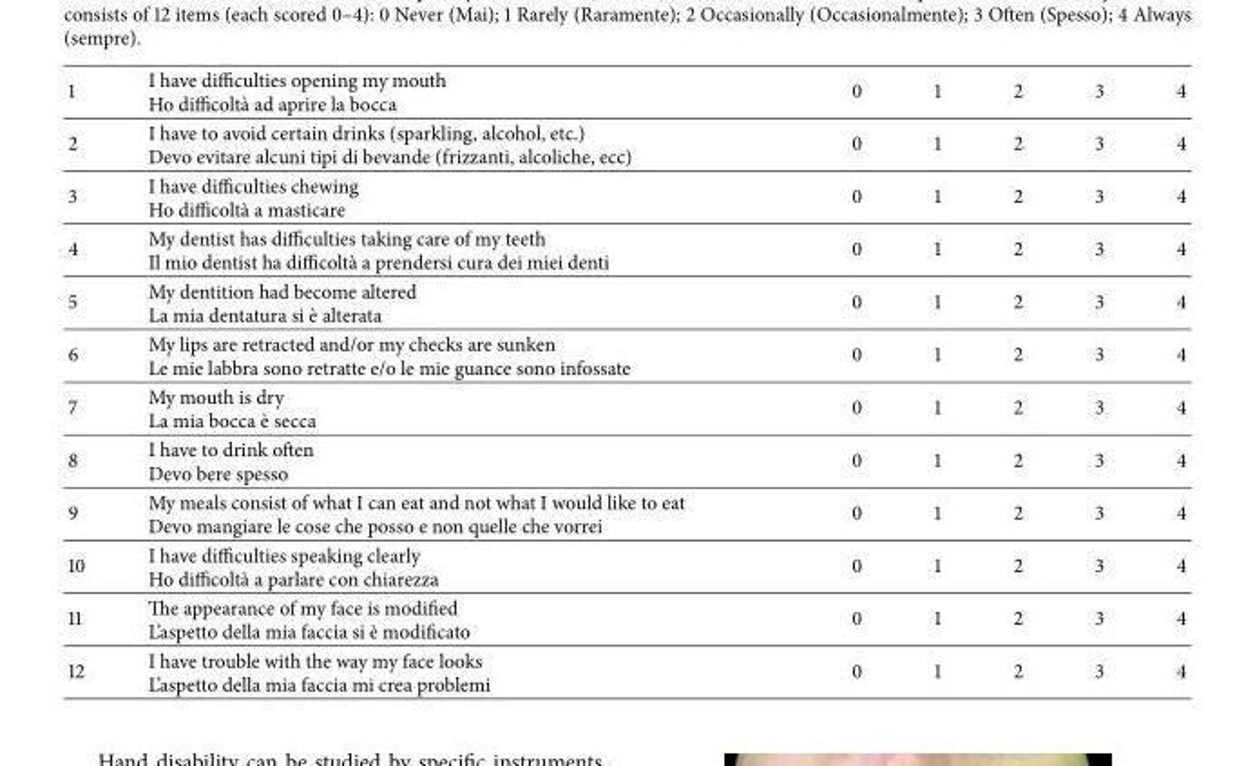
<table><tbody><tr><td>1</td><td>I have difficulties opening my mouth Ho difficolt`a ad aprire la bocca</td><td>0</td><td>1</td><td>2</td><td>3</td><td>4</td></tr><tr><td>2</td><td>I have to avoid certain drinks (sparkling, alcohol, etc.) Devo evitare alcuni tipi di bevande (frizzanti, alcoliche, ecc)</td><td>0</td><td>1</td><td>2</td><td>3</td><td>4</td></tr><tr><td>3</td><td>I have difficulties chewing Ho difficolt`a a masticare</td><td>0</td><td>1</td><td>2</td><td>3</td><td>4</td></tr><tr><td>4</td><td>My dentist has difficulties taking care of my teeth Il mio dentist ha difficolt`a a prendersi cura dei miei denti</td><td>0</td><td>1</td><td>2</td><td>3</td><td>4</td></tr><tr><td>5</td><td>My dentition had become altered La mia dentatura si `e alterata</td><td>0</td><td>1</td><td>2</td><td>3</td><td>4</td></tr><tr><td>6</td><td>My lips are retracted and/or my checks are sunken Le mie labbra sono retratte e/o le mie guance sono infossate</td><td>0</td><td>1</td><td>2</td><td>3</td><td>4</td></tr><tr><td>7</td><td>My mouth is dry La mia bocca `e secca</td><td>0</td><td>1</td><td>2</td><td>3</td><td>4</td></tr><tr><td>8</td><td>I have to drink often Devo bere spesso</td><td>0</td><td>1</td><td>2</td><td>3</td><td>4</td></tr><tr><td>9</td><td>My meals consist of what I can eat and not what I would like to eat Devo mangiare le cose che posso e non quelle che vorrei</td><td>0</td><td>1</td><td>2</td><td>3</td><td>4</td></tr><tr><td>10</td><td>I have difficulties speaking clearly Ho difficolt`a a parlare con chiarezza</td><td>0</td><td>1</td><td>2</td><td>3</td><td>4</td></tr><tr><td>11</td><td>The appearance of my face is modified L’aspetto della mia faccia si `e modificato</td><td>0</td><td>1</td><td>2</td><td>3</td><td>4</td></tr><tr><td>12</td><td>I have trouble with the way my face looks L’aspetto della mia faccia mi crea problemi</td><td>0</td><td>1</td><td>2</td><td>3</td><td>4</td></tr></tbody></table>